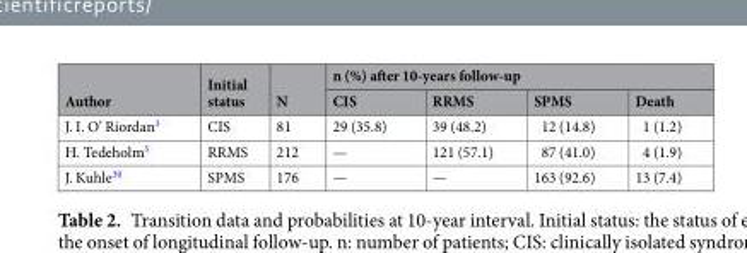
<table><thead><tr><td rowspan="2">Author</td><td rowspan="2">Initial status</td><td rowspan="2">N</td><td colspan="4">n (%) after 10-years follow-up</td></tr><tr><td>CIS</td><td>RRMS</td><td>SPMS</td><td>Death</td></tr></thead><tbody><tr><td>J. I. O’ Riordan<sup>3</sup></td><td>CIS</td><td>81</td><td>29 (35.8)</td><td>39 (48.2)</td><td>12 (14.8)</td><td>1 (1.2)</td></tr><tr><td>H. Tedeholm<sup>5</sup></td><td>RRMS</td><td>212</td><td>—</td><td>121 (57.1)</td><td>87 (41.0)</td><td>4 (1.9)</td></tr><tr><td>J. Kuhle<sup>30</sup></td><td>SPMS</td><td>176</td><td>—</td><td>—</td><td>163 (92.6)</td><td>13 (7.4)</td></tr></tbody></table>